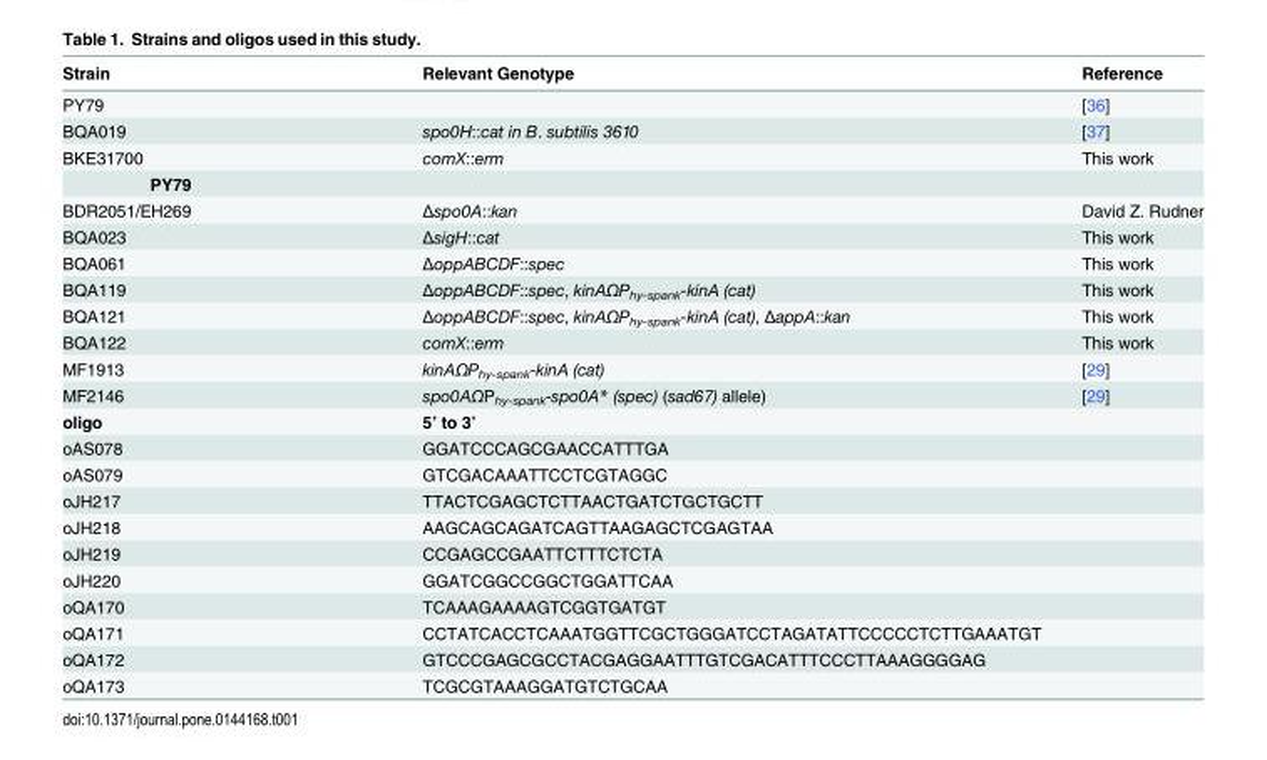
<table><thead><tr><td>Strain</td><td>Relevant Genotype</td><td>Reference</td></tr></thead><tbody><tr><td>PY79</td><td></td><td>[36]</td></tr><tr><td>BQA019</td><td>spo0H::cat in B. subtilis 3610</td><td>[37]</td></tr><tr><td>BKE31700</td><td>comX::erm</td><td>This work</td></tr><tr><td colspan="3">PY79</td></tr><tr><td>BDR2051/EH269</td><td>Δspo0A::kan</td><td>David Z. Rudner</td></tr><tr><td>BQA023</td><td>ΔsigH::cat</td><td>This work</td></tr><tr><td>BQA061</td><td>ΔoppABCDF::spec</td><td>This work</td></tr><tr><td>BQA119</td><td>ΔoppABCDF::spec, kinAΩP<sub>hy-spank</sub>-kinA (cat)</td><td>This work</td></tr><tr><td>BQA121</td><td>ΔoppABCDF::spec, kinAΩP<sub>hy-spank</sub>-kinA (cat), ΔappA::kan</td><td>This work</td></tr><tr><td>BQA122</td><td>comX::erm</td><td>This work</td></tr><tr><td>MF1913</td><td>kinAΩP<sub>hy-spank</sub>-kinA (cat)</td><td>[29]</td></tr><tr><td>MF2146</td><td>spo0AΩP<sub>hy-spank</sub>-spo0A* (spec) (sad67) allele)</td><td>[29]</td></tr><tr><td>oligo</td><td>5’ to 3’</td><td></td></tr><tr><td>oAS078</td><td colspan="2">GGATCCCAGCGAACCATTTGA</td></tr><tr><td>oAS079</td><td colspan="2">GTCGACAAATTCCTCGTAGGC</td></tr><tr><td>oJH217</td><td colspan="2">TTACTCGAGCTCTTAACTGATCTGCTGCTT</td></tr><tr><td>oJH218</td><td colspan="2">AAGCAGCAGATCAGTTAAGAGCTCGAGTAA</td></tr><tr><td>oJH219</td><td colspan="2">CCGAGCCGAATTCTTTCTCTA</td></tr><tr><td>oJH220</td><td colspan="2">GGATCGGCCGGCTGGATTCAA</td></tr><tr><td>oQA170</td><td colspan="2">TCAAAGAAAAGTCGGTGATGT</td></tr><tr><td>oQA171</td><td colspan="2">CCTATCACCTCAAATGGTTCGCTGGGATCCTAGATATTCCCCCTCTTGAAATGT</td></tr><tr><td>oQA172</td><td colspan="2">GTCCCGAGCGCCTACGAGGAATTTGTCGACATTTCCCTTAAAGGGGAG</td></tr><tr><td>oQA173</td><td colspan="2">TCGCGTAAAGGATGTCTGCAA</td></tr></tbody></table>